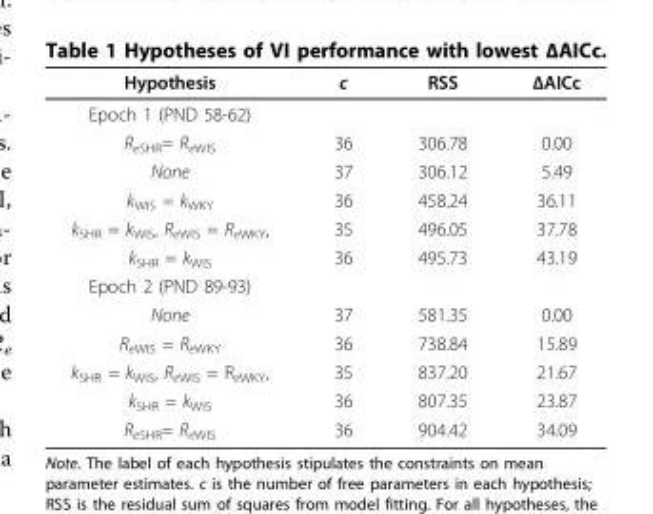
<table><thead><tr><td>Hypothesis</td><td>c</td><td>RSS</td><td>ΔAICc</td></tr></thead><tbody><tr><td colspan="4">Epoch 1 (PND 58-62)</td></tr><tr><td>R<sub>eSHR</sub>= R<sub>eWIS</sub></td><td>36</td><td>306.78</td><td>0.00</td></tr><tr><td>None</td><td>37</td><td>306.12</td><td>5.49</td></tr><tr><td>k<sub>WIS</sub> = k<sub>WKY</sub></td><td>36</td><td>458.24</td><td>36.11</td></tr><tr><td>k<sub>SHR</sub> = k<sub>WIS</sub>, R<sub>eWIS</sub> = R<sub>eWKY</sub>,</td><td>35</td><td>496.05</td><td>37.78</td></tr><tr><td>k<sub>SHR</sub> = k<sub>WIS</sub></td><td>36</td><td>495.73</td><td>43.19</td></tr><tr><td colspan="4">Epoch 2 (PND 89-93)</td></tr><tr><td>None</td><td>37</td><td>581.35</td><td>0.00</td></tr><tr><td>R<sub>eWIS</sub> = R<sub>eWKY</sub></td><td>36</td><td>738.84</td><td>15.89</td></tr><tr><td>k<sub>SHR</sub> = k<sub>WIS</sub>, R<sub>eWIS</sub> = R<sub>eWKY</sub>,</td><td>35</td><td>837.20</td><td>21.67</td></tr><tr><td>k<sub>SHR</sub> = k<sub>WIS</sub></td><td>36</td><td>807.35</td><td>23.87</td></tr><tr><td>R<sub>eSHR</sub>= R<sub>eWIS</sub></td><td>36</td><td>904.42</td><td>34.09</td></tr></tbody></table>